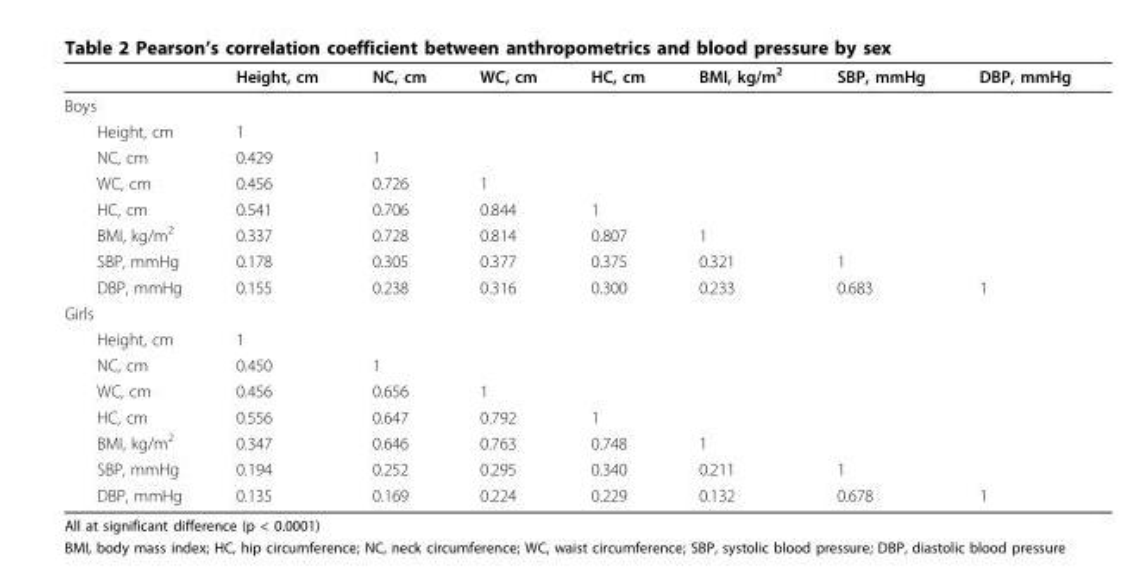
<table><thead><tr><td></td><td>Height, cm</td><td>NC, cm</td><td>WC, cm</td><td>HC, cm</td><td>BMI, kg/m<sup>2</sup></td><td>SBP, mmHg</td><td>DBP, mmHg</td></tr></thead><tbody><tr><td colspan="8">Boys</td></tr><tr><td>Height, cm</td><td>1</td><td></td><td></td><td></td><td></td><td></td><td></td></tr><tr><td>NC, cm</td><td>0.429</td><td>1</td><td></td><td></td><td></td><td></td><td></td></tr><tr><td>WC, cm</td><td>0.456</td><td>0.726</td><td>1</td><td></td><td></td><td></td><td></td></tr><tr><td>HC, cm</td><td>0.541</td><td>0.706</td><td>0.844</td><td>1</td><td></td><td></td><td></td></tr><tr><td>BMI, kg/m<sup>2</sup></td><td>0.337</td><td>0.728</td><td>0.814</td><td>0.807</td><td>1</td><td></td><td></td></tr><tr><td>SBP, mmHg</td><td>0.178</td><td>0.305</td><td>0.377</td><td>0.375</td><td>0.321</td><td>1</td><td></td></tr><tr><td>DBP, mmHg</td><td>0.155</td><td>0.238</td><td>0.316</td><td>0.300</td><td>0.233</td><td>0.683</td><td>1</td></tr><tr><td colspan="8">Girls</td></tr><tr><td>Height, cm</td><td>1</td><td></td><td></td><td></td><td></td><td></td><td></td></tr><tr><td>NC, cm</td><td>0.450</td><td>1</td><td></td><td></td><td></td><td></td><td></td></tr><tr><td>WC, cm</td><td>0.456</td><td>0.656</td><td>1</td><td></td><td></td><td></td><td></td></tr><tr><td>HC, cm</td><td>0.556</td><td>0.647</td><td>0.792</td><td>1</td><td></td><td></td><td></td></tr><tr><td>BMI, kg/m<sup>2</sup></td><td>0.347</td><td>0.646</td><td>0.763</td><td>0.748</td><td>1</td><td></td><td></td></tr><tr><td>SBP, mmHg</td><td>0.194</td><td>0.252</td><td>0.295</td><td>0.340</td><td>0.211</td><td>1</td><td></td></tr><tr><td>DBP, mmHg</td><td>0.135</td><td>0.169</td><td>0.224</td><td>0.229</td><td>0.132</td><td>0.678</td><td>1</td></tr></tbody></table>